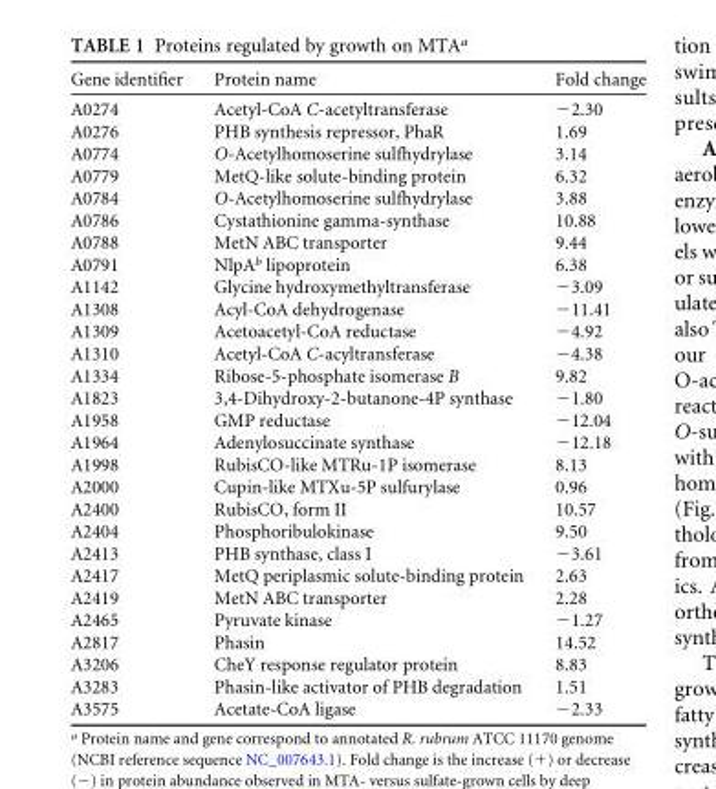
<table><thead><tr><td>Gene identifier</td><td>Protein name</td><td>Fold change</td></tr></thead><tbody><tr><td>A0274</td><td>Acetyl-CoA C-acetyltransferase</td><td>−2.30</td></tr><tr><td>A0276</td><td>PHB synthesis repressor, PhaR</td><td>1.69</td></tr><tr><td>A0774</td><td>O-Acetylhomoserine sulfhydrylase</td><td>3.14</td></tr><tr><td>A0779</td><td>MetQ-like solute-binding protein</td><td>6.32</td></tr><tr><td>A0784</td><td>O-Acetylhomoserine sulfhydrylase</td><td>3.88</td></tr><tr><td>A0786</td><td>Cystathionine gamma-synthase</td><td>10.88</td></tr><tr><td>A0788</td><td>MetN ABC transporter</td><td>9.44</td></tr><tr><td>A0791</td><td>NlpA<sup>b</sup> lipoprotein</td><td>6.38</td></tr><tr><td>A1142</td><td>Glycine hydroxymethyltransferase</td><td>−3.09</td></tr><tr><td>A1308</td><td>Acyl-CoA dehydrogenase</td><td>−11.41</td></tr><tr><td>A1309</td><td>Acetoacetyl-CoA reductase</td><td>−4.92</td></tr><tr><td>A1310</td><td>Acetyl-CoA C-acyltransferase</td><td>−4.38</td></tr><tr><td>A1334</td><td>Ribose-5-phosphate isomerase B</td><td>9.82</td></tr><tr><td>A1823</td><td>3,4-Dihydroxy-2-butanone-4P synthase</td><td>−1.80</td></tr><tr><td>A1958</td><td>GMP reductase</td><td>−12.04</td></tr><tr><td>A1964</td><td>Adenylosuccinate synthase</td><td>−12.18</td></tr><tr><td>A1998</td><td>RubisCO-like MTRu-1P isomerase</td><td>8.13</td></tr><tr><td>A2000</td><td>Cupin-like MTXu-5P sulfurylase</td><td>0.96</td></tr><tr><td>A2400</td><td>RubisCO, form II</td><td>10.57</td></tr><tr><td>A2404</td><td>Phosphoribulokinase</td><td>9.50</td></tr><tr><td>A2413</td><td>PHB synthase, class I</td><td>−3.61</td></tr><tr><td>A2417</td><td>MetQ periplasmic solute-binding protein</td><td>2.63</td></tr><tr><td>A2419</td><td>MetN ABC transporter</td><td>2.28</td></tr><tr><td>A2465</td><td>Pyruvate kinase</td><td>−1.27</td></tr><tr><td>A2817</td><td>Phasin</td><td>14.52</td></tr><tr><td>A3206</td><td>CheY response regulator protein</td><td>8.83</td></tr><tr><td>A3283</td><td>Phasin-like activator of PHB degradation</td><td>1.51</td></tr><tr><td>A3575</td><td>Acetate-CoA ligase</td><td>−2.33</td></tr></tbody></table>